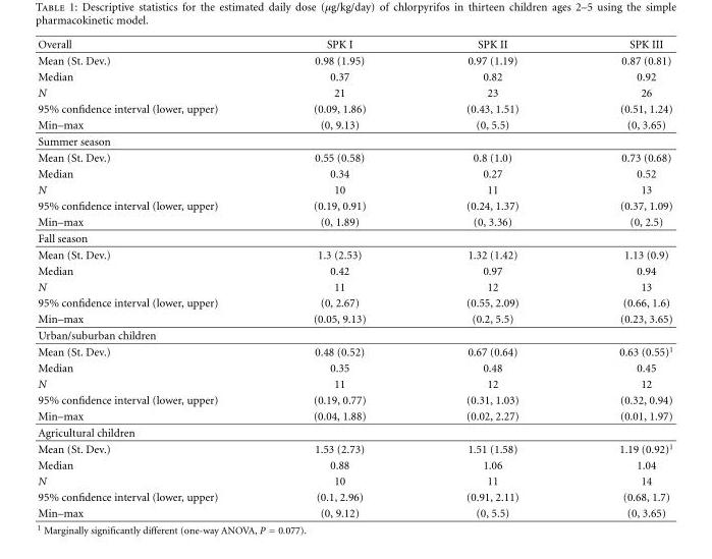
<table><thead><tr><td>Overall</td><td>SPK I</td><td>SPK II</td><td>SPK III</td></tr></thead><tbody><tr><td>Mean (St. Dev.)</td><td>0.98 (1.95)</td><td>0.97 (1.19)</td><td>0.87 (0.81)</td></tr><tr><td>Median</td><td>0.37</td><td>0.82</td><td>0.92</td></tr><tr><td>N</td><td>21</td><td>23</td><td>26</td></tr><tr><td>95% confidence interval (lower, upper)</td><td>(0.09, 1.86)</td><td>(0.43, 1.51)</td><td>(0.51, 1.24)</td></tr><tr><td>Min–max</td><td>(0, 9.13)</td><td>(0, 5.5)</td><td>(0, 3.65)</td></tr><tr><td colspan="4">Summer season</td></tr><tr><td>Mean (St. Dev.)</td><td>0.55 (0.58)</td><td>0.8 (1.0)</td><td>0.73 (0.68)</td></tr><tr><td>Median</td><td>0.34</td><td>0.27</td><td>0.52</td></tr><tr><td>N</td><td>10</td><td>11</td><td>13</td></tr><tr><td>95% confidence interval (lower, upper)</td><td>(0.19, 0.91)</td><td>(0.24, 1.37)</td><td>(0.37, 1.09)</td></tr><tr><td>Min–max</td><td>(0, 1.89)</td><td>(0, 3.36)</td><td>(0, 2.5)</td></tr><tr><td colspan="4">Fall season</td></tr><tr><td>Mean (St. Dev.)</td><td>1.3 (2.53)</td><td>1.32 (1.42)</td><td>1.13 (0.9)</td></tr><tr><td>Median</td><td>0.42</td><td>0.97</td><td>0.94</td></tr><tr><td>N</td><td>11</td><td>12</td><td>13</td></tr><tr><td>95% confidence interval (lower, upper)</td><td>(0, 2.67)</td><td>(0.55, 2.09)</td><td>(0.66, 1.6)</td></tr><tr><td>Min–max</td><td>(0.05, 9.13)</td><td>(0.2, 5.5)</td><td>(0.23, 3.65)</td></tr><tr><td colspan="4">Urban/suburban children</td></tr><tr><td>Mean (St. Dev.)</td><td>0.48 (0.52)</td><td>0.67 (0.64)</td><td>0.63 (0.55)<sup>1</sup></td></tr><tr><td>Median</td><td>0.35</td><td>0.48</td><td>0.45</td></tr><tr><td>N</td><td>11</td><td>12</td><td>12</td></tr><tr><td>95% confidence interval (lower, upper)</td><td>(0.19, 0.77)</td><td>(0.31, 1.03)</td><td>(0.32, 0.94)</td></tr><tr><td>Min–max</td><td>(0.04, 1.88)</td><td>(0.02, 2.27)</td><td>(0.01, 1.97)</td></tr><tr><td colspan="4">Agricultural children</td></tr><tr><td>Mean (St. Dev.)</td><td>1.53 (2.73)</td><td>1.51 (1.58)</td><td>1.19 (0.92)<sup>1</sup></td></tr><tr><td>Median</td><td>0.88</td><td>1.06</td><td>1.04</td></tr><tr><td>N</td><td>10</td><td>11</td><td>14</td></tr><tr><td>95% confidence interval (lower, upper)</td><td>(0.1, 2.96)</td><td>(0.91, 2.11)</td><td>(0.68, 1.7)</td></tr><tr><td>Min–max</td><td>(0, 9.12)</td><td>(0, 5.5)</td><td>(0, 3.65)</td></tr></tbody></table>